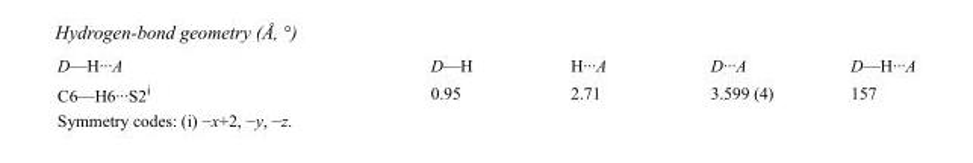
<table><tbody><tr><td>D—H···A</td><td>D—H</td><td>H···A</td><td>D···A</td><td>D—H···A</td></tr><tr><td>C6—H6···S2<sup>i</sup></td><td>0.95</td><td>2.71</td><td>3.599 (4)</td><td>157</td></tr></tbody></table>